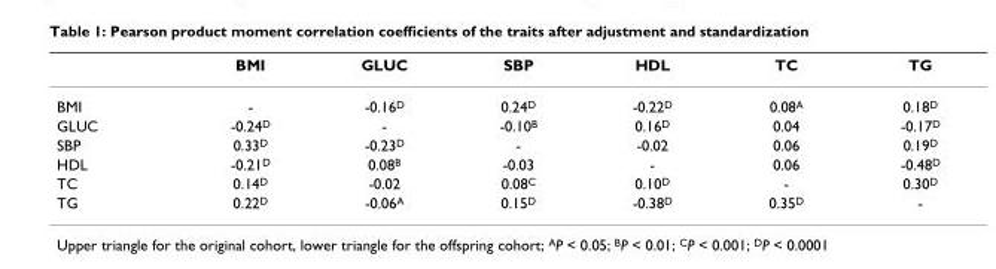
<table><thead><tr><td></td><td>BMI</td><td>GLUC</td><td>SBP</td><td>HDL</td><td>TC</td><td>TG</td></tr></thead><tbody><tr><td>BMI</td><td>-</td><td>-0.16D</td><td>0.24D</td><td>-0.22D</td><td>0.08A</td><td>0.18D</td></tr><tr><td>GLUC</td><td>-0.24D</td><td>-</td><td>-0.10B</td><td>0.16D</td><td>0.04</td><td>-0.17D</td></tr><tr><td>SBP</td><td>0.33D</td><td>-0.23D</td><td>-</td><td>-0.02</td><td>0.06</td><td>0.19D</td></tr><tr><td>HDL</td><td>-0.21D</td><td>0.08B</td><td>-0.03</td><td>-</td><td>0.06</td><td>-0.48D</td></tr><tr><td>TC</td><td>0.14D</td><td>-0.02</td><td>0.08C</td><td>0.10D</td><td>-</td><td>0.30D</td></tr><tr><td>TG</td><td>0.22D</td><td>-0.06A</td><td>0.15D</td><td>-0.38D</td><td>0.35D</td><td>-</td></tr></tbody></table>